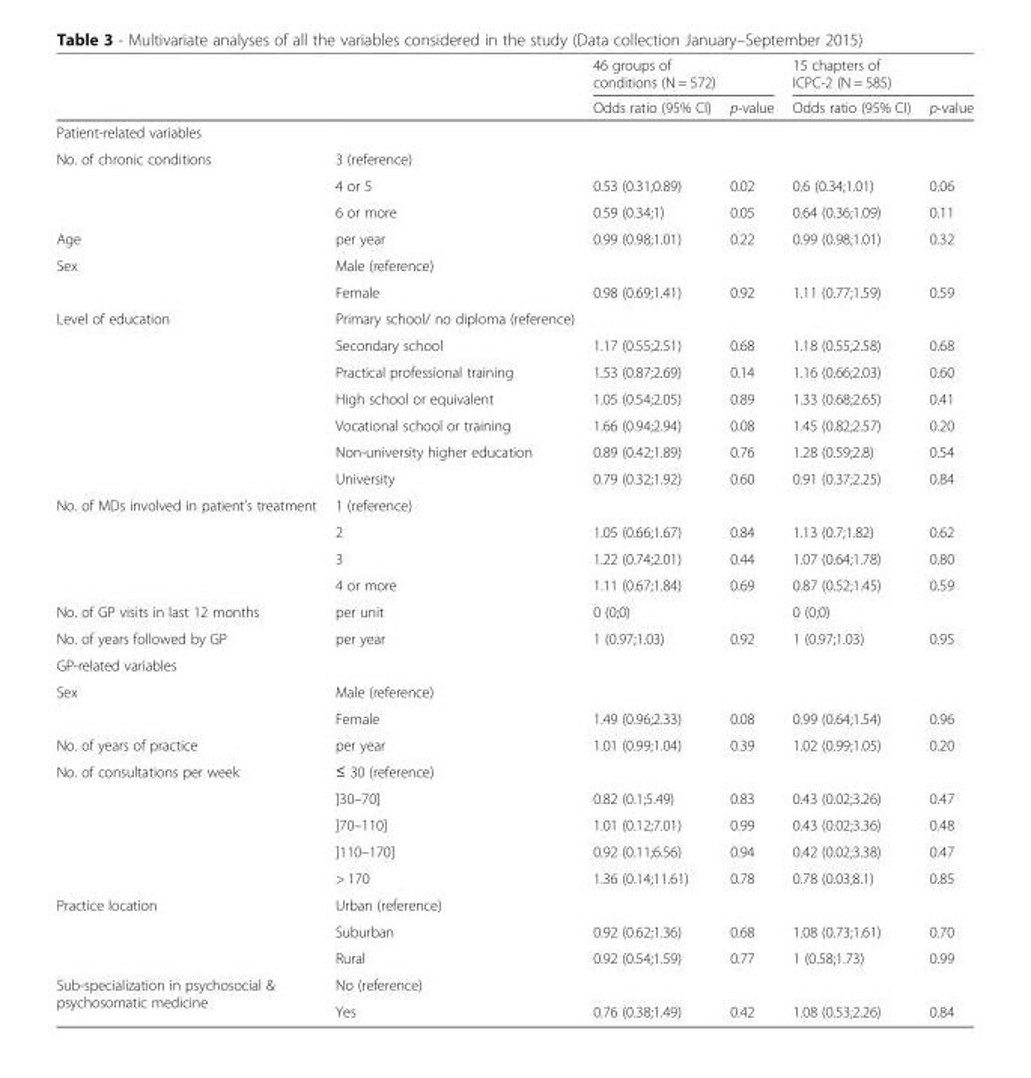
<table><thead><tr><td rowspan="2"></td><td rowspan="2"></td><td colspan="2">46 groups of conditions (N = 572)</td><td colspan="2">15 chapters of ICPC-2 (N = 585)</td></tr><tr><td>Odds ratio (95% CI)</td><td>p-value</td><td>Odds ratio (95% CI)</td><td>p-value</td></tr></thead><tbody><tr><td colspan="6">Patient-related variables</td></tr><tr><td rowspan="3">No. of chronic conditions</td><td>3 (reference)</td><td></td><td></td><td></td><td></td></tr><tr><td>4 or 5</td><td>0.53 (0.31;0.89)</td><td>0.02</td><td>0.6 (0.34;1.01)</td><td>0.06</td></tr><tr><td>6 or more</td><td>0.59 (0.34;1)</td><td>0.05</td><td>0.64 (0.36;1.09)</td><td>0.11</td></tr><tr><td>Age</td><td>per year</td><td>0.99 (0.98;1.01)</td><td>0.22</td><td>0.99 (0.98;1.01)</td><td>0.32</td></tr><tr><td rowspan="2">Sex</td><td>Male (reference)</td><td></td><td></td><td></td><td></td></tr><tr><td>Female</td><td>0.98 (0.69;1.41)</td><td>0.92</td><td>1.11 (0.77;1.59)</td><td>0.59</td></tr><tr><td rowspan="7">Level of education</td><td>Primary school/ no diploma (reference)</td><td></td><td></td><td></td><td></td></tr><tr><td>Secondary school</td><td>1.17 (0.55;2.51)</td><td>0.68</td><td>1.18 (0.55;2.58)</td><td>0.68</td></tr><tr><td>Practical professional training</td><td>1.53 (0.87;2.69)</td><td>0.14</td><td>1.16 (0.66;2.03)</td><td>0.60</td></tr><tr><td>High school or equivalent</td><td>1.05 (0.54;2.05)</td><td>0.89</td><td>1.33 (0.68;2.65)</td><td>0.41</td></tr><tr><td>Vocational school or training</td><td>1.66 (0.94;2.94)</td><td>0.08</td><td>1.45 (0.82;2.57)</td><td>0.20</td></tr><tr><td>Non-university higher education</td><td>0.89 (0.42;1.89)</td><td>0.76</td><td>1.28 (0.59;2.8)</td><td>0.54</td></tr><tr><td>University</td><td>0.79 (0.32;1.92)</td><td>0.60</td><td>0.91 (0.37;2.25)</td><td>0.84</td></tr><tr><td rowspan="4">No. of MDs involved in patient’s treatment</td><td>1 (reference)</td><td></td><td></td><td></td><td></td></tr><tr><td>2</td><td>1.05 (0.66;1.67)</td><td>0.84</td><td>1.13 (0.7;1.82)</td><td>0.62</td></tr><tr><td>3</td><td>1.22 (0.74;2.01)</td><td>0.44</td><td>1.07 (0.64;1.78)</td><td>0.80</td></tr><tr><td>4 or more</td><td>1.11 (0.67;1.84)</td><td>0.69</td><td>0.87 (0.52;1.45)</td><td>0.59</td></tr><tr><td>No. of GP visits in last 12 months</td><td>per unit</td><td>0 (0;0)</td><td></td><td>0 (0;0)</td><td></td></tr><tr><td>No. of years followed by GP</td><td>per year</td><td>1 (0.97;1.03)</td><td>0.92</td><td>1 (0.97;1.03)</td><td>0.95</td></tr><tr><td colspan="6">GP-related variables</td></tr><tr><td rowspan="2">Sex</td><td>Male (reference)</td><td></td><td></td><td></td><td></td></tr><tr><td>Female</td><td>1.49 (0.96;2.33)</td><td>0.08</td><td>0.99 (0.64;1.54)</td><td>0.96</td></tr><tr><td>No. of years of practice</td><td>per year</td><td>1.01 (0.99;1.04)</td><td>0.39</td><td>1.02 (0.99;1.05)</td><td>0.20</td></tr><tr><td rowspan="5">No. of consultations per week</td><td>≤ 30 (reference)</td><td></td><td></td><td></td><td></td></tr><tr><td>]30–70]</td><td>0.82 (0.1;5.49)</td><td>0.83</td><td>0.43 (0.02;3.26)</td><td>0.47</td></tr><tr><td>]70–110]</td><td>1.01 (0.12;7.01)</td><td>0.99</td><td>0.43 (0.02;3.36)</td><td>0.48</td></tr><tr><td>]110–170]</td><td>0.92 (0.11;6.56)</td><td>0.94</td><td>0.42 (0.02;3.38)</td><td>0.47</td></tr><tr><td>&gt; 170</td><td>1.36 (0.14;11.61)</td><td>0.78</td><td>0.78 (0.03;8.1)</td><td>0.85</td></tr><tr><td rowspan="3">Practice location</td><td>Urban (reference)</td><td></td><td></td><td></td><td></td></tr><tr><td>Suburban</td><td>0.92 (0.62;1.36)</td><td>0.68</td><td>1.08 (0.73;1.61)</td><td>0.70</td></tr><tr><td>Rural</td><td>0.92 (0.54;1.59)</td><td>0.77</td><td>1 (0.58;1.73)</td><td>0.99</td></tr><tr><td rowspan="2">Sub-specialization in psychosocial &amp; psychosomatic medicine</td><td>No (reference)</td><td></td><td></td><td></td><td></td></tr><tr><td>Yes</td><td>0.76 (0.38;1.49)</td><td>0.42</td><td>1.08 (0.53;2.26)</td><td>0.84</td></tr></tbody></table>